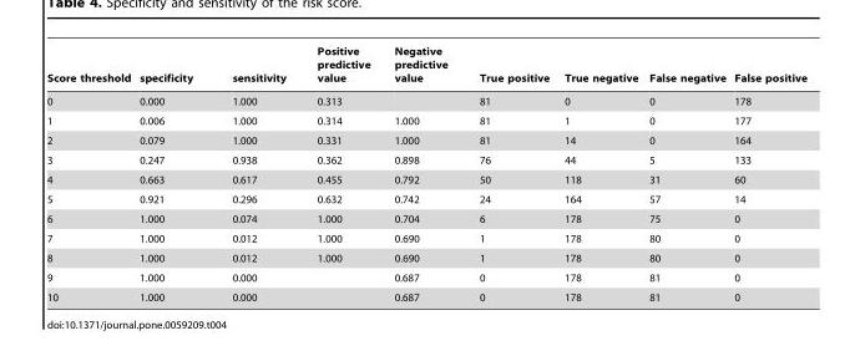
<table><thead><tr><td>Score threshold</td><td>specificity</td><td>sensitivity</td><td>Positive predictive value</td><td>Negative predictive value</td><td>True positive</td><td>True negative</td><td>False negative</td><td>False positive</td></tr></thead><tbody><tr><td>0</td><td>0.000</td><td>1.000</td><td>0.313</td><td></td><td>81</td><td>0</td><td>0</td><td>178</td></tr><tr><td>1</td><td>0.006</td><td>1.000</td><td>0.314</td><td>1.000</td><td>81</td><td>1</td><td>0</td><td>177</td></tr><tr><td>2</td><td>0.079</td><td>1.000</td><td>0.331</td><td>1.000</td><td>81</td><td>14</td><td>0</td><td>164</td></tr><tr><td>3</td><td>0.247</td><td>0.938</td><td>0.362</td><td>0.898</td><td>76</td><td>44</td><td>5</td><td>133</td></tr><tr><td>4</td><td>0.663</td><td>0.617</td><td>0.455</td><td>0.792</td><td>50</td><td>118</td><td>31</td><td>60</td></tr><tr><td>5</td><td>0.921</td><td>0.296</td><td>0.632</td><td>0.742</td><td>24</td><td>164</td><td>57</td><td>14</td></tr><tr><td>6</td><td>1.000</td><td>0.074</td><td>1.000</td><td>0.704</td><td>6</td><td>178</td><td>75</td><td>0</td></tr><tr><td>7</td><td>1.000</td><td>0.012</td><td>1.000</td><td>0.690</td><td>1</td><td>178</td><td>80</td><td>0</td></tr><tr><td>8</td><td>1.000</td><td>0.012</td><td>1.000</td><td>0.690</td><td>1</td><td>178</td><td>80</td><td>0</td></tr><tr><td>9</td><td>1.000</td><td>0.000</td><td></td><td>0.687</td><td>0</td><td>178</td><td>81</td><td>0</td></tr><tr><td>10</td><td>1.000</td><td>0.000</td><td></td><td>0.687</td><td>0</td><td>178</td><td>81</td><td>0</td></tr></tbody></table>